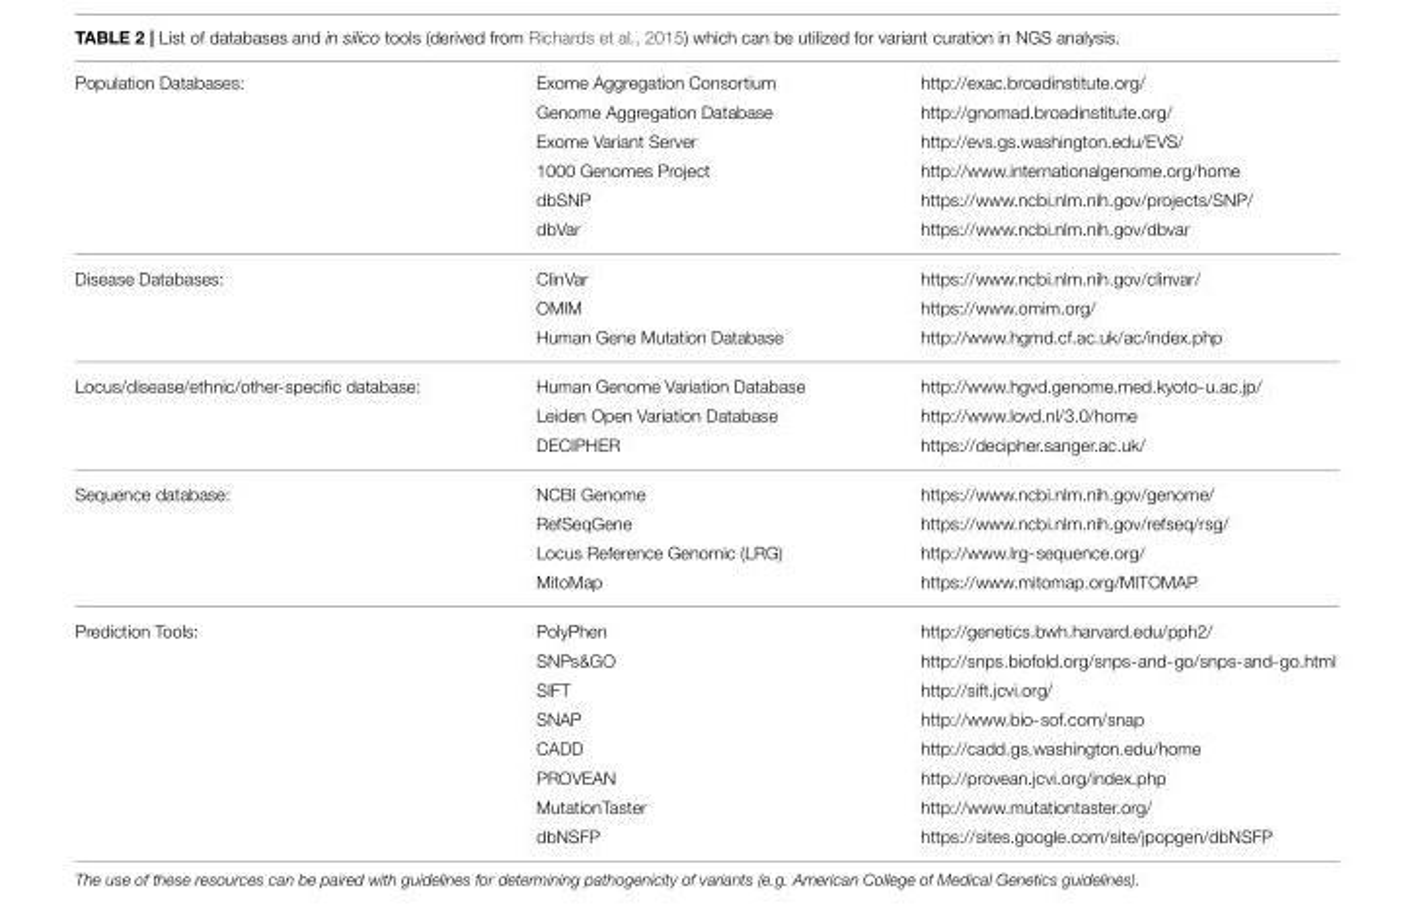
<table><tbody><tr><td rowspan="6">Population Databases:</td><td>Exome Aggregation Consortium</td><td>http://exac.broadinstitute.org/</td></tr><tr><td>Genome Aggregation Database</td><td>http://gnomad.broadinstitute.org/</td></tr><tr><td>Exome Variant Server</td><td>http://evs.gs.washington.edu/EVS/</td></tr><tr><td>1000 Genomes Project</td><td>http://www.internationalgenome.org/home</td></tr><tr><td>dbSNP</td><td>https://www.ncbi.nlm.nih.gov/projects/SNP/</td></tr><tr><td>dbVar</td><td>https://www.ncbi.nlm.nih.gov/dbvar</td></tr><tr><td rowspan="3">Disease Databases:</td><td>ClinVar</td><td>https://www.ncbi.nlm.nih.gov/clinvar/</td></tr><tr><td>OMIM</td><td>https://www.omim.org/</td></tr><tr><td>Human Gene Mutation Database</td><td>http://www.hgmd.cf.ac.uk/ac/index.php</td></tr><tr><td rowspan="3">Locus/disease/ethnic/other-specific database:</td><td>Human Genome Variation Database</td><td>http://www.hgvd.genome.med.kyoto-u.ac.jp/</td></tr><tr><td>Leiden Open Variation Database</td><td>http://www.lovd.nl/3.0/home</td></tr><tr><td>DECIPHER</td><td>https://decipher.sanger.ac.uk/</td></tr><tr><td rowspan="4">Sequence database:</td><td>NCBI Genome</td><td>https://www.ncbi.nlm.nih.gov/genome/</td></tr><tr><td>RefSeqGene</td><td>https://www.ncbi.nlm.nih.gov/refseq/rsg/</td></tr><tr><td>Locus Reference Genomic (LRG)</td><td>http://www.lrg-sequence.org/</td></tr><tr><td>MitoMap</td><td>https://www.mitomap.org/MITOMAP</td></tr><tr><td rowspan="8">Prediction Tools:</td><td>PolyPhen</td><td>http://genetics.bwh.harvard.edu/pph2/</td></tr><tr><td>SNPs&amp;GO</td><td>http://snps.biofold.org/snps-and-go/snps-and-go.html</td></tr><tr><td>SIFT</td><td>http://sift.jcvi.org/</td></tr><tr><td>SNAP</td><td>http://www.bio-sof.com/snap</td></tr><tr><td>CADD</td><td>http://cadd.gs.washington.edu/home</td></tr><tr><td>PROVEAN</td><td>http://provean.jcvi.org/index.php</td></tr><tr><td>MutationTaster</td><td>http://www.mutationtaster.org/</td></tr><tr><td>dbNSFP</td><td>https://sites.google.com/site/jpopgen/dbNSFP</td></tr></tbody></table>